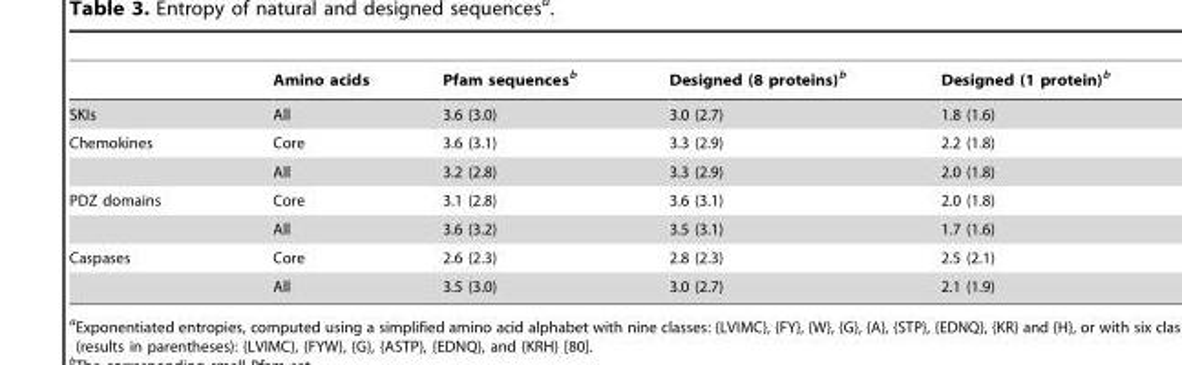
<table><thead><tr><td></td><td>Amino acids</td><td>Pfam sequences<sup>b</sup></td><td>Designed (8 proteins)<sup>b</sup></td><td>Designed (1 protein)<sup>b</sup></td></tr></thead><tbody><tr><td>SKIs</td><td>All</td><td>3.6 (3.0)</td><td>3.0 (2.7)</td><td>1.8 (1.6)</td></tr><tr><td rowspan="2">Chemokines</td><td>Core</td><td>3.6 (3.1)</td><td>3.3 (2.9)</td><td>2.2 (1.8)</td></tr><tr><td>All</td><td>3.2 (2.8)</td><td>3.3 (2.9)</td><td>2.0 (1.8)</td></tr><tr><td rowspan="2">PDZ domains</td><td>Core</td><td>3.1 (2.8)</td><td>3.6 (3.1)</td><td>2.0 (1.8)</td></tr><tr><td>All</td><td>3.6 (3.2)</td><td>3.5 (3.1)</td><td>1.7 (1.6)</td></tr><tr><td rowspan="2">Caspases</td><td>Core</td><td>2.6 (2.3)</td><td>2.8 (2.3)</td><td>2.5 (2.1)</td></tr><tr><td>All</td><td>3.5 (3.0)</td><td>3.0 (2.7)</td><td>2.1 (1.9)</td></tr></tbody></table>